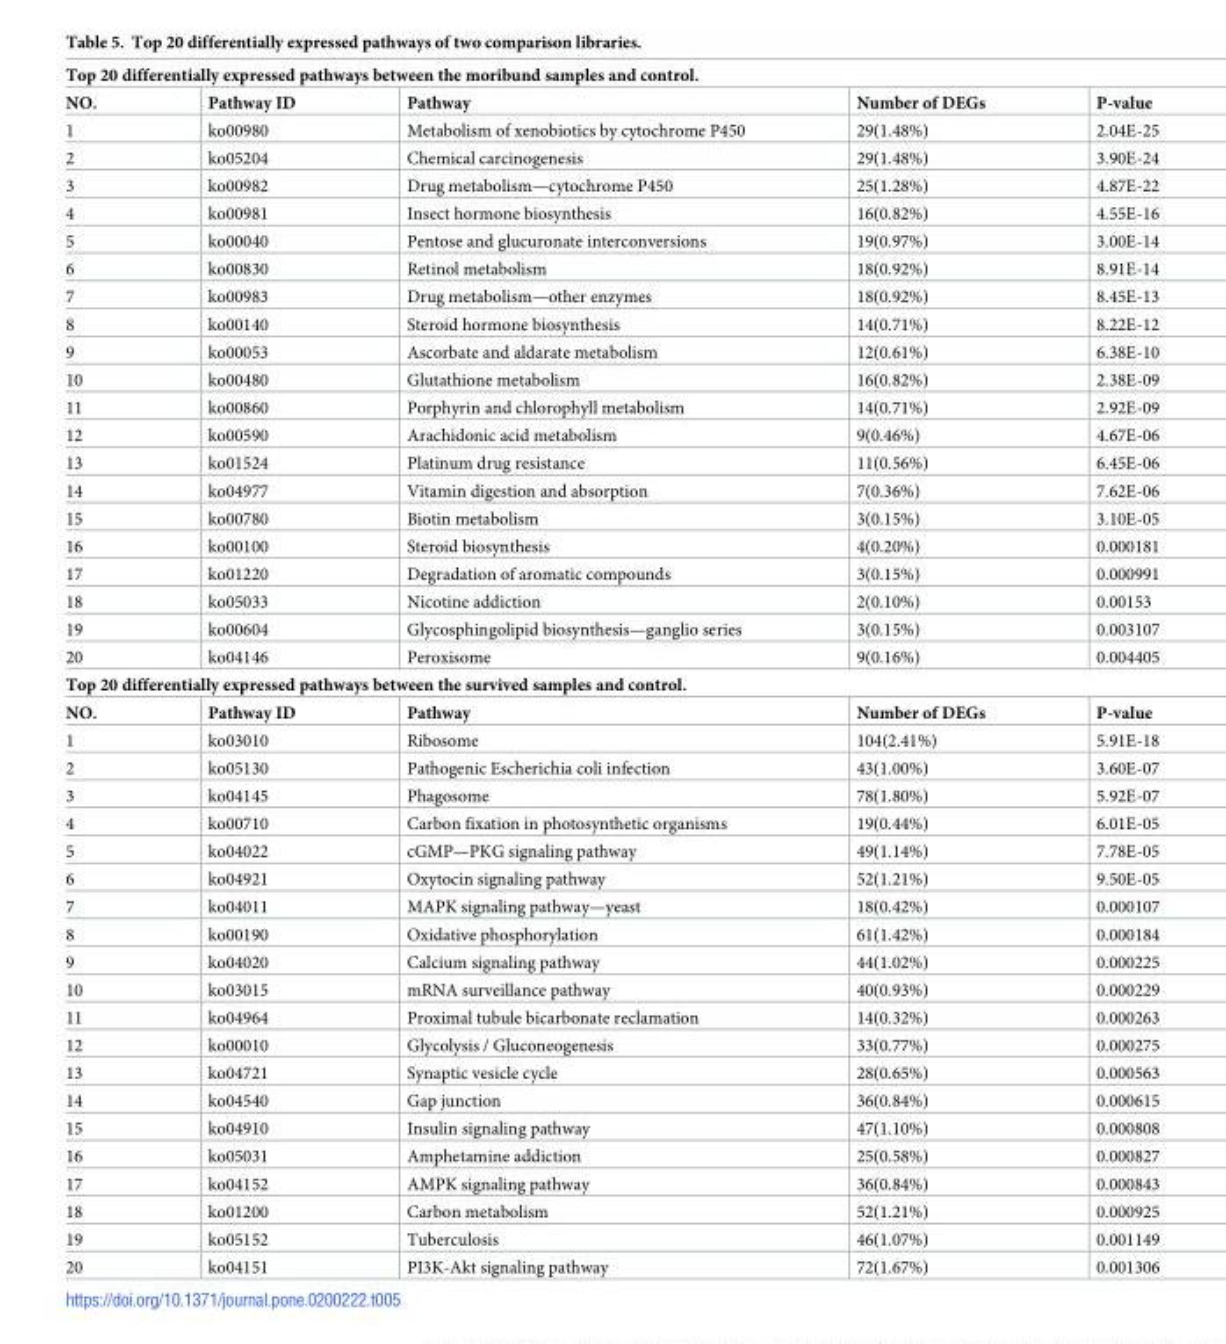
<table><tbody><tr><td colspan="5">Top 20 differentially expressed pathways between the moribund samples and control.</td></tr><tr><td>NO.</td><td>Pathway ID</td><td>Pathway</td><td>Number of DEGs</td><td>P-value</td></tr><tr><td>1</td><td>ko00980</td><td>Metabolism of xenobiotics by cytochrome P450</td><td>29(1.48%)</td><td>2.04E-25</td></tr><tr><td>2</td><td>ko05204</td><td>Chemical carcinogenesis</td><td>29(1.48%)</td><td>3.90E-24</td></tr><tr><td>3</td><td>ko00982</td><td>Drug metabolism—cytochrome P450</td><td>25(1.28%)</td><td>4.87E-22</td></tr><tr><td>4</td><td>ko00981</td><td>Insect hormone biosynthesis</td><td>16(0.82%)</td><td>4.55E-16</td></tr><tr><td>5</td><td>ko00040</td><td>Pentose and glucuronate interconversions</td><td>19(0.97%)</td><td>3.00E-14</td></tr><tr><td>6</td><td>ko00830</td><td>Retinol metabolism</td><td>18(0.92%)</td><td>8.91E-14</td></tr><tr><td>7</td><td>ko00983</td><td>Drug metabolism—other enzymes</td><td>18(0.92%)</td><td>8.45E-13</td></tr><tr><td>8</td><td>ko00140</td><td>Steroid hormone biosynthesis</td><td>14(0.71%)</td><td>8.22E-12</td></tr><tr><td>9</td><td>ko00053</td><td>Ascorbate and aldarate metabolism</td><td>12(0.61%)</td><td>6.38E-10</td></tr><tr><td>10</td><td>ko00480</td><td>Glutathione metabolism</td><td>16(0.82%)</td><td>2.38E-09</td></tr><tr><td>11</td><td>ko00860</td><td>Porphyrin and chlorophyll metabolism</td><td>14(0.71%)</td><td>2.92E-09</td></tr><tr><td>12</td><td>ko00590</td><td>Arachidonic acid metabolism</td><td>9(0.46%)</td><td>4.67E-06</td></tr><tr><td>13</td><td>ko01524</td><td>Platinum drug resistance</td><td>11(0.56%)</td><td>6.45E-06</td></tr><tr><td>14</td><td>ko04977</td><td>Vitamin digestion and absorption</td><td>7(0.36%)</td><td>7.62E-06</td></tr><tr><td>15</td><td>ko00780</td><td>Biotin metabolism</td><td>3(0.15%)</td><td>3.10E-05</td></tr><tr><td>16</td><td>ko00100</td><td>Steroid biosynthesis</td><td>4(0.20%)</td><td>0.000181</td></tr><tr><td>17</td><td>ko01220</td><td>Degradation of aromatic compounds</td><td>3(0.15%)</td><td>0.000991</td></tr><tr><td>18</td><td>ko05033</td><td>Nicotine addiction</td><td>2(0.10%)</td><td>0.00153</td></tr><tr><td>19</td><td>ko00604</td><td>Glycosphingolipid biosynthesis—ganglio series</td><td>3(0.15%)</td><td>0.003107</td></tr><tr><td>20</td><td>ko04146</td><td>Peroxisome</td><td>9(0.16%)</td><td>0.004405</td></tr><tr><td colspan="5">Top 20 differentially expressed pathways between the survived samples and control.</td></tr><tr><td>NO.</td><td>Pathway ID</td><td>Pathway</td><td>Number of DEGs</td><td>P-value</td></tr><tr><td>1</td><td>ko03010</td><td>Ribosome</td><td>104(2.41%)</td><td>5.91E-18</td></tr><tr><td>2</td><td>ko05130</td><td>Pathogenic Escherichia coli infection</td><td>43(1.00%)</td><td>3.60E-07</td></tr><tr><td>3</td><td>ko04145</td><td>Phagosome</td><td>78(1.80%)</td><td>5.92E-07</td></tr><tr><td>4</td><td>ko00710</td><td>Carbon fixation in photosynthetic organisms</td><td>19(0.44%)</td><td>6.01E-05</td></tr><tr><td>5</td><td>ko04022</td><td>cGMP—PKG signaling pathway</td><td>49(1.14%)</td><td>7.78E-05</td></tr><tr><td>6</td><td>ko04921</td><td>Oxytocin signaling pathway</td><td>52(1.21%)</td><td>9.50E-05</td></tr><tr><td>7</td><td>ko04011</td><td>MAPK signaling pathway—yeast</td><td>18(0.42%)</td><td>0.000107</td></tr><tr><td>8</td><td>ko00190</td><td>Oxidative phosphorylation</td><td>61(1.42%)</td><td>0.000184</td></tr><tr><td>9</td><td>ko04020</td><td>Calcium signaling pathway</td><td>44(1.02%)</td><td>0.000225</td></tr><tr><td>10</td><td>ko03015</td><td>mRNA surveillance pathway</td><td>40(0.93%)</td><td>0.000229</td></tr><tr><td>11</td><td>ko04964</td><td>Proximal tubule bicarbonate reclamation</td><td>14(0.32%)</td><td>0.000263</td></tr><tr><td>12</td><td>ko00010</td><td>Glycolysis / Gluconeogenesis</td><td>33(0.77%)</td><td>0.000275</td></tr><tr><td>13</td><td>ko04721</td><td>Synaptic vesicle cycle</td><td>28(0.65%)</td><td>0.000563</td></tr><tr><td>14</td><td>ko04540</td><td>Gap junction</td><td>36(0.84%)</td><td>0.000615</td></tr><tr><td>15</td><td>ko04910</td><td>Insulin signaling pathway</td><td>47(1.10%)</td><td>0.000808</td></tr><tr><td>16</td><td>ko05031</td><td>Amphetamine addiction</td><td>25(0.58%)</td><td>0.000827</td></tr><tr><td>17</td><td>ko04152</td><td>AMPK signaling pathway</td><td>36(0.84%)</td><td>0.000843</td></tr><tr><td>18</td><td>ko01200</td><td>Carbon metabolism</td><td>52(1.21%)</td><td>0.000925</td></tr><tr><td>19</td><td>ko05152</td><td>Tuberculosis</td><td>46(1.07%)</td><td>0.001149</td></tr><tr><td>20</td><td>ko04151</td><td>PI3K-Akt signaling pathway</td><td>72(1.67%)</td><td>0.001306</td></tr></tbody></table>